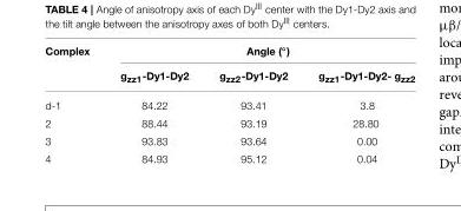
<table><thead><tr><td rowspan="2">Complex</td><td colspan="3">Angle (◦)</td></tr><tr><td>g<sub>zz1</sub>-Dy1-Dy2</td><td>g<sub>zz2</sub>-Dy1-Dy2</td><td>g<sub>zz1</sub>-Dy1-Dy2- g<sub>zz2</sub></td></tr></thead><tbody><tr><td>d-1</td><td>84.22</td><td>93.41</td><td>3.8</td></tr><tr><td>2</td><td>88.44</td><td>93.19</td><td>28.80</td></tr><tr><td>3</td><td>93.83</td><td>93.64</td><td>0.00</td></tr><tr><td>4</td><td>84.93</td><td>95.12</td><td>0.04</td></tr></tbody></table>